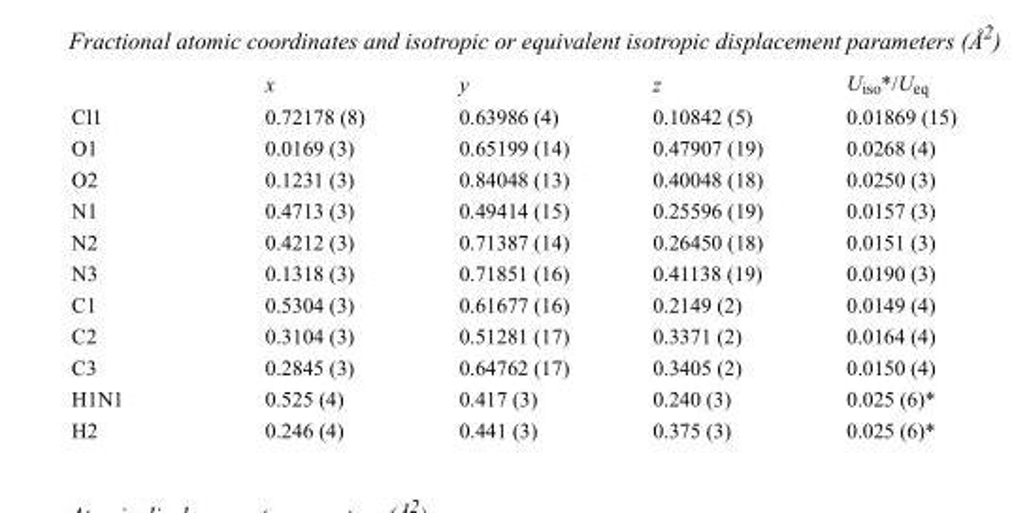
<table><thead><tr><td></td><td>x</td><td>y</td><td>z</td><td>U<sub>iso</sub>*/U<sub>eq</sub></td></tr></thead><tbody><tr><td>Cl1</td><td>0.72178 (8)</td><td>0.63986 (4)</td><td>0.10842 (5)</td><td>0.01869 (15)</td></tr><tr><td>O1</td><td>0.0169 (3)</td><td>0.65199 (14)</td><td>0.47907 (19)</td><td>0.0268 (4)</td></tr><tr><td>O2</td><td>0.1231 (3)</td><td>0.84048 (13)</td><td>0.40048 (18)</td><td>0.0250 (3)</td></tr><tr><td>N1</td><td>0.4713 (3)</td><td>0.49414 (15)</td><td>0.25596 (19)</td><td>0.0157 (3)</td></tr><tr><td>N2</td><td>0.4212 (3)</td><td>0.71387 (14)</td><td>0.26450 (18)</td><td>0.0151 (3)</td></tr><tr><td>N3</td><td>0.1318 (3)</td><td>0.71851 (16)</td><td>0.41138 (19)</td><td>0.0190 (3)</td></tr><tr><td>C1</td><td>0.5304 (3)</td><td>0.61677 (16)</td><td>0.2149 (2)</td><td>0.0149 (4)</td></tr><tr><td>C2</td><td>0.3104 (3)</td><td>0.51281 (17)</td><td>0.3371 (2)</td><td>0.0164 (4)</td></tr><tr><td>C3</td><td>0.2845 (3)</td><td>0.64762 (17)</td><td>0.3405 (2)</td><td>0.0150 (4)</td></tr><tr><td>H1N1</td><td>0.525 (4)</td><td>0.417 (3)</td><td>0.240 (3)</td><td>0.025 (6)*</td></tr><tr><td>H2</td><td>0.246 (4)</td><td>0.441 (3)</td><td>0.375 (3)</td><td>0.025 (6)*</td></tr></tbody></table>